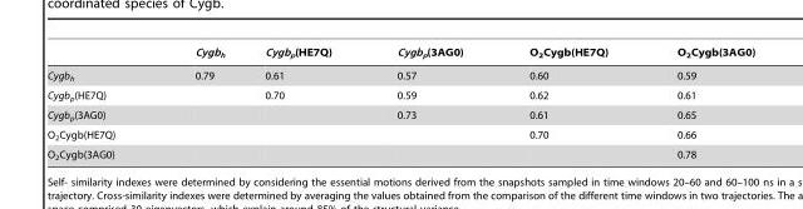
<table><thead><tr><td></td><td>Cygb<sub>h</sub></td><td>Cygb<sub>p</sub>(HE7Q)</td><td>Cygb<sub>p</sub>(3AG0)</td><td>O<sub>2</sub>Cygb(HE7Q)</td><td>O<sub>2</sub>Cygb(3AG0)</td></tr></thead><tbody><tr><td>Cygb<sub>h</sub></td><td>0.79</td><td>0.61</td><td>0.57</td><td>0.60</td><td>0.59</td></tr><tr><td>Cygb<sub>p</sub>(HE7Q)</td><td></td><td>0.70</td><td>0.59</td><td>0.62</td><td>0.61</td></tr><tr><td>Cygb<sub>p</sub>(3AG0)</td><td></td><td></td><td>0.73</td><td>0.61</td><td>0.65</td></tr><tr><td>O<sub>2</sub>Cygb(HE7Q)</td><td></td><td></td><td></td><td>0.70</td><td>0.66</td></tr><tr><td>O<sub>2</sub>Cygb(3AG0)</td><td></td><td></td><td></td><td></td><td>0.78</td></tr></tbody></table>